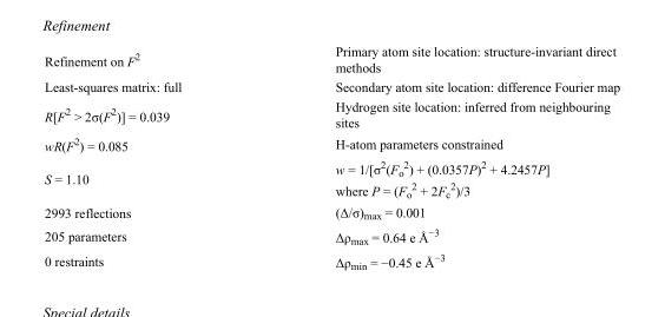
<table><tbody><tr><td>Refinement on F<sup>2</sup></td><td>Primary atom site location: structure-invariant direct methods</td></tr><tr><td>Least-squares matrix: full</td><td>Secondary atom site location: difference Fourier map</td></tr><tr><td>R[F<sup>2</sup> &gt; 2σ(F<sup>2</sup>)] = 0.039</td><td>Hydrogen site location: inferred from neighbouring sites</td></tr><tr><td>wR(F<sup>2</sup>) = 0.085</td><td>H-atom parameters constrained</td></tr><tr><td>S = 1.10</td><td>w = 1/[σ<sup>2</sup>(F<sub>o</sub> <sup>2</sup>) + (0.0357P)<sup>2</sup> + 4.2457P] where P = (F<sub>o</sub> <sup>2</sup> + 2F<sub>c</sub> <sup>2</sup>)/3</td></tr><tr><td>2993 reflections</td><td>(Δ/σ)<sub>max</sub> = 0.001</td></tr><tr><td>205 parameters</td><td>Δρ<sub>max</sub> = 0.64 e Å<sup>−3</sup></td></tr><tr><td>0 restraints</td><td>Δρ<sub>min</sub> = −0.45 e Å<sup>−3</sup></td></tr></tbody></table>